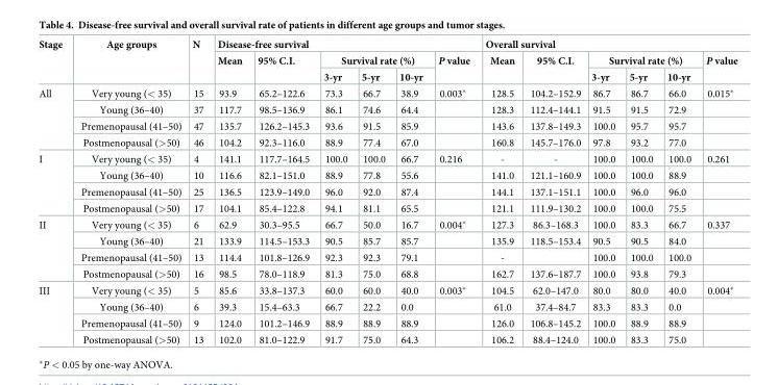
<table><thead><tr><td rowspan="3">Stage</td><td rowspan="3">Age groups</td><td rowspan="3">N</td><td colspan="6">Disease-free survival</td><td colspan="6">Overall survival</td></tr><tr><td rowspan="2">Mean</td><td rowspan="2">95% C.I.</td><td colspan="3">Survival rate (%)</td><td rowspan="2">P value</td><td rowspan="2">Mean</td><td rowspan="2">95% C.I.</td><td colspan="3">Survival rate (%)</td><td rowspan="2">P value</td></tr><tr><td>3-yr</td><td>5-yr</td><td>10-yr</td><td>3-yr</td><td>5-yr</td><td>10-yr</td></tr></thead><tbody><tr><td rowspan="4">All</td><td>Very young (&lt; 35)</td><td>15</td><td>93.9</td><td>65.2–122.6</td><td>73.3</td><td>66.7</td><td>38.9</td><td>0.003*</td><td>128.5</td><td>104.2–152.9</td><td>86.7</td><td>86.7</td><td>66.0</td><td>0.015*</td></tr><tr><td>Young (36–40)</td><td>37</td><td>117.7</td><td>98.5–136.9</td><td>86.1</td><td>74.6</td><td>64.4</td><td></td><td>128.3</td><td>112.4–144.1</td><td>91.5</td><td>91.5</td><td>72.9</td><td></td></tr><tr><td>Premenopausal (41–50)</td><td>47</td><td>135.7</td><td>126.2–145.3</td><td>93.6</td><td>91.5</td><td>85.9</td><td></td><td>143.6</td><td>137.8–149.3</td><td>100.0</td><td>95.7</td><td>95.7</td><td></td></tr><tr><td>Postmenopausal (&gt;50)</td><td>46</td><td>104.2</td><td>92.3–116.0</td><td>88.9</td><td>77.4</td><td>67.0</td><td></td><td>160.8</td><td>145.7–176.0</td><td>97.8</td><td>93.2</td><td>77.0</td><td></td></tr><tr><td rowspan="4">I</td><td>Very young (&lt; 35)</td><td>4</td><td>141.1</td><td>117.7–164.5</td><td>100.0</td><td>100.0</td><td>66.7</td><td>0.216</td><td>-</td><td>-</td><td>100.0</td><td>100.0</td><td>100.0</td><td>0.261</td></tr><tr><td>Young (36–40)</td><td>10</td><td>116.6</td><td>82.1–151.0</td><td>88.9</td><td>77.8</td><td>55.6</td><td></td><td>141.0</td><td>121.1–160.9</td><td>100.0</td><td>100.0</td><td>88.9</td><td></td></tr><tr><td>Premenopausal (41–50)</td><td>25</td><td>136.5</td><td>123.9–149.0</td><td>96.0</td><td>92.0</td><td>87.4</td><td></td><td>144.1</td><td>137.1–151.1</td><td>100.0</td><td>96.0</td><td>96.0</td><td></td></tr><tr><td>Postmenopausal (&gt;50)</td><td>17</td><td>104.1</td><td>85.4–122.8</td><td>94.1</td><td>81.1</td><td>65.5</td><td></td><td>121.1</td><td>111.9–130.2</td><td>100.0</td><td>100.0</td><td>75.5</td><td></td></tr><tr><td rowspan="4">II</td><td>Very young (&lt; 35)</td><td>6</td><td>62.9</td><td>30.3–95.5</td><td>66.7</td><td>50.0</td><td>16.7</td><td>0.004*</td><td>127.3</td><td>86.3–168.3</td><td>100.0</td><td>83.3</td><td>66.7</td><td>0.337</td></tr><tr><td>Young (36–40)</td><td>21</td><td>133.9</td><td>114.5–153.3</td><td>90.5</td><td>85.7</td><td>85.7</td><td></td><td>135.9</td><td>118.5–153.4</td><td>90.5</td><td>90.5</td><td>84.0</td><td></td></tr><tr><td>Premenopausal (41–50)</td><td>13</td><td>114.4</td><td>101.8–126.9</td><td>92.3</td><td>92.3</td><td>79.1</td><td></td><td>-</td><td></td><td>100.0</td><td>100.0</td><td>100.0</td><td></td></tr><tr><td>Postmenopausal (&gt;50)</td><td>16</td><td>98.5</td><td>78.0–118.9</td><td>81.3</td><td>75.0</td><td>68.8</td><td></td><td>162.7</td><td>137.6–187.7</td><td>100.0</td><td>93.8</td><td>79.3</td><td></td></tr><tr><td rowspan="4">III</td><td>Very young (&lt; 35)</td><td>5</td><td>85.6</td><td>33.8–137.3</td><td>60.0</td><td>60.0</td><td>40.0</td><td>0.003*</td><td>104.5</td><td>62.0–147.0</td><td>80.0</td><td>80.0</td><td>40.0</td><td>0.004*</td></tr><tr><td>Young (36–40)</td><td>6</td><td>39.3</td><td>15.4–63.3</td><td>66.7</td><td>22.2</td><td>0.0</td><td></td><td>61.0</td><td>37.4–84.7</td><td>83.3</td><td>83.3</td><td>0.0</td><td></td></tr><tr><td>Premenopausal (41–50)</td><td>9</td><td>124.0</td><td>101.2–146.9</td><td>88.9</td><td>88.9</td><td>88.9</td><td></td><td>126.0</td><td>106.8–145.2</td><td>100.0</td><td>88.9</td><td>88.9</td><td></td></tr><tr><td>Postmenopausal (&gt;50)</td><td>13</td><td>102.0</td><td>81.0–122.9</td><td>91.7</td><td>75.0</td><td>64.3</td><td></td><td>106.2</td><td>88.4–124.0</td><td>100.0</td><td>83.3</td><td>75.0</td><td></td></tr></tbody></table>